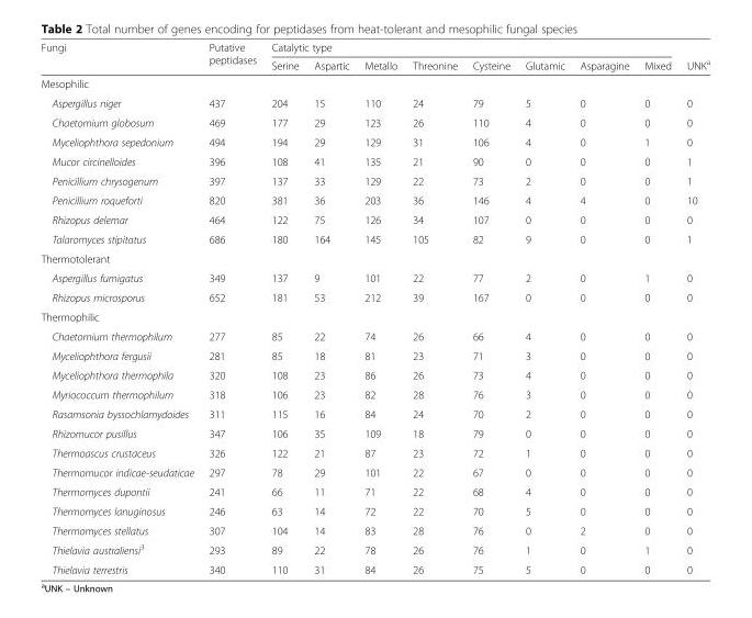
<table><thead><tr><td rowspan="2">Fungi</td><td rowspan="2">Putative peptidases</td><td colspan="8">Catalytic type</td><td rowspan="2">UNK<sup>a</sup></td></tr><tr><td>Serine</td><td>Aspartic</td><td>Metallo</td><td>Threonine</td><td>Cysteine</td><td>Glutamic</td><td>Asparagine</td><td>Mixed</td></tr></thead><tbody><tr><td colspan="11">Mesophilic</td></tr><tr><td>Aspergillus niger</td><td>437</td><td>204</td><td>15</td><td>110</td><td>24</td><td>79</td><td>5</td><td>0</td><td>0</td><td>0</td></tr><tr><td>Chaetomium globosum</td><td>469</td><td>177</td><td>29</td><td>123</td><td>26</td><td>110</td><td>4</td><td>0</td><td>0</td><td>0</td></tr><tr><td>Myceliophthora sepedonium</td><td>494</td><td>194</td><td>29</td><td>129</td><td>31</td><td>106</td><td>4</td><td>0</td><td>1</td><td>0</td></tr><tr><td>Mucor circinelloides</td><td>396</td><td>108</td><td>41</td><td>135</td><td>21</td><td>90</td><td>0</td><td>0</td><td>0</td><td>1</td></tr><tr><td>Penicillium chrysogenum</td><td>397</td><td>137</td><td>33</td><td>129</td><td>22</td><td>73</td><td>2</td><td>0</td><td>0</td><td>1</td></tr><tr><td>Penicillium roqueforti</td><td>820</td><td>381</td><td>36</td><td>203</td><td>36</td><td>146</td><td>4</td><td>4</td><td>0</td><td>10</td></tr><tr><td>Rhizopus delemar</td><td>464</td><td>122</td><td>75</td><td>126</td><td>34</td><td>107</td><td>0</td><td>0</td><td>0</td><td>0</td></tr><tr><td>Talaromyces stipitatus</td><td>686</td><td>180</td><td>164</td><td>145</td><td>105</td><td>82</td><td>9</td><td>0</td><td>0</td><td>1</td></tr><tr><td colspan="11">Thermotolerant</td></tr><tr><td>Aspergillus fumigatus</td><td>349</td><td>137</td><td>9</td><td>101</td><td>22</td><td>77</td><td>2</td><td>0</td><td>1</td><td>0</td></tr><tr><td>Rhizopus microsporus</td><td>652</td><td>181</td><td>53</td><td>212</td><td>39</td><td>167</td><td>0</td><td>0</td><td>0</td><td>0</td></tr><tr><td colspan="11">Thermophilic</td></tr><tr><td>Chaetomium thermophilum</td><td>277</td><td>85</td><td>22</td><td>74</td><td>26</td><td>66</td><td>4</td><td>0</td><td>0</td><td>0</td></tr><tr><td>Myceliophthora fergusii</td><td>281</td><td>85</td><td>18</td><td>81</td><td>23</td><td>71</td><td>3</td><td>0</td><td>0</td><td>0</td></tr><tr><td>Myceliophthora thermophila</td><td>320</td><td>108</td><td>23</td><td>86</td><td>26</td><td>73</td><td>4</td><td>0</td><td>0</td><td>0</td></tr><tr><td>Myriococcum thermophilum</td><td>318</td><td>106</td><td>23</td><td>82</td><td>28</td><td>76</td><td>3</td><td>0</td><td>0</td><td>0</td></tr><tr><td>Rasamsonia byssochlamydoides</td><td>311</td><td>115</td><td>16</td><td>84</td><td>24</td><td>70</td><td>2</td><td>0</td><td>0</td><td>0</td></tr><tr><td>Rhizomucor pusillus</td><td>347</td><td>106</td><td>35</td><td>109</td><td>18</td><td>79</td><td>0</td><td>0</td><td>0</td><td>0</td></tr><tr><td>Thermoascus crustaceus</td><td>326</td><td>122</td><td>21</td><td>87</td><td>23</td><td>72</td><td>1</td><td>0</td><td>0</td><td>0</td></tr><tr><td>Thermomucor indicae-seudaticae</td><td>297</td><td>78</td><td>29</td><td>101</td><td>22</td><td>67</td><td>0</td><td>0</td><td>0</td><td>0</td></tr><tr><td>Thermomyces dupontii</td><td>241</td><td>66</td><td>11</td><td>71</td><td>22</td><td>68</td><td>4</td><td>0</td><td>0</td><td>0</td></tr><tr><td>Thermomyces lanuginosus</td><td>246</td><td>63</td><td>14</td><td>72</td><td>22</td><td>70</td><td>5</td><td>0</td><td>0</td><td>0</td></tr><tr><td>Thermomyces stellatus</td><td>307</td><td>104</td><td>14</td><td>83</td><td>28</td><td>76</td><td>0</td><td>2</td><td>0</td><td>0</td></tr><tr><td>Thielavia australiensi<sup>3</sup></td><td>293</td><td>89</td><td>22</td><td>78</td><td>26</td><td>76</td><td>1</td><td>0</td><td>1</td><td>0</td></tr><tr><td>Thielavia terrestris</td><td>340</td><td>110</td><td>31</td><td>84</td><td>26</td><td>75</td><td>5</td><td>0</td><td>0</td><td>0</td></tr></tbody></table>